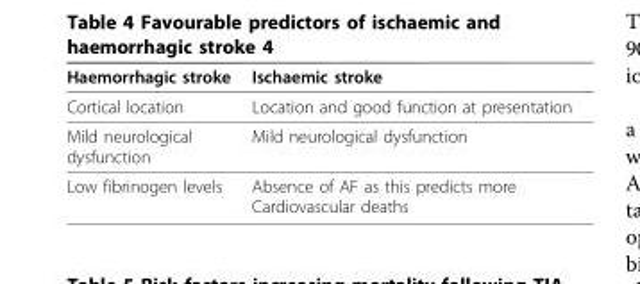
<table><thead><tr><td>Haemorrhagic stroke</td><td>Ischaemic stroke</td></tr></thead><tbody><tr><td>Cortical location</td><td>Location and good function at presentation</td></tr><tr><td>Mild neurological dysfunction</td><td>Mild neurological dysfunction</td></tr><tr><td>Low fibrinogen levels</td><td>Absence of AF as this predicts more Cardiovascular deaths</td></tr></tbody></table>